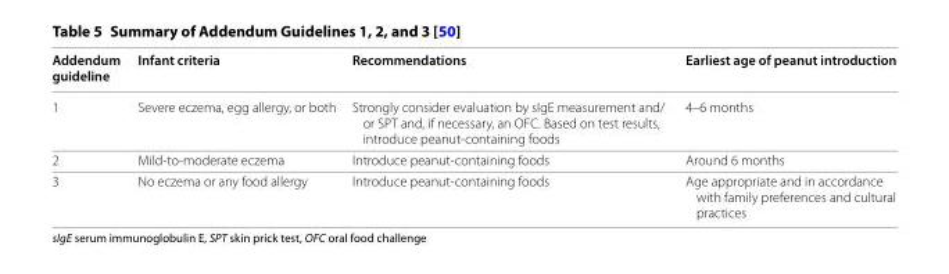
<table><thead><tr><td>Addendum guideline</td><td>Infant criteria</td><td>Recommendations</td><td>Earliest age of peanut introduction</td></tr></thead><tbody><tr><td>1</td><td>Severe eczema, egg allergy, or both</td><td>Strongly consider evaluation by sIgE measurement and/ or SPT and, if necessary, an OFC. Based on test results, introduce peanut-containing foods</td><td>4–6 months</td></tr><tr><td>2</td><td>Mild-to-moderate eczema</td><td>Introduce peanut-containing foods</td><td>Around 6 months</td></tr><tr><td>3</td><td>No eczema or any food allergy</td><td>Introduce peanut-containing foods</td><td>Age appropriate and in accordance with family preferences and cultural practices</td></tr></tbody></table>